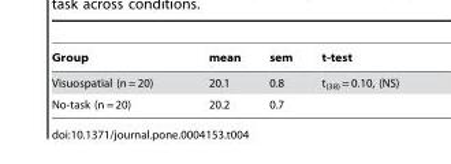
<table><thead><tr><td>Group</td><td>mean</td><td>sem</td><td>t-test</td></tr></thead><tbody><tr><td>Visuospatial (n = 20)</td><td>20.1</td><td>0.8</td><td>t<sub>(38)</sub> = 0.10, (NS)</td></tr><tr><td>No-task (n = 20)</td><td>20.2</td><td>0.7</td><td></td></tr></tbody></table>